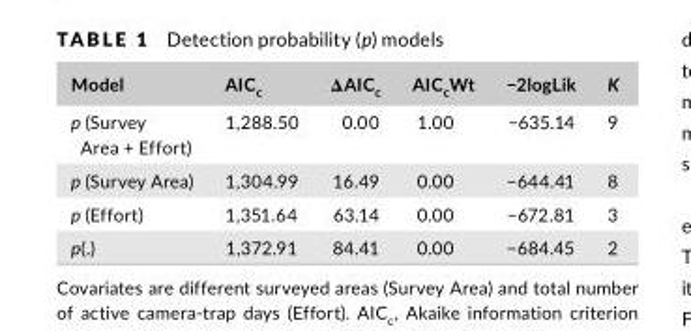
<table><thead><tr><td>Model</td><td>AIC<sub>c</sub></td><td>ΔAIC<sub>c</sub></td><td>AIC<sub>c</sub>Wt</td><td>−2logLik</td><td>K</td></tr></thead><tbody><tr><td>p (Survey Area + Effort)</td><td>1,288.50</td><td>0.00</td><td>1.00</td><td>−635.14</td><td>9</td></tr><tr><td>p (Survey Area)</td><td>1,304.99</td><td>16.49</td><td>0.00</td><td>−644.41</td><td>8</td></tr><tr><td>p (Effort)</td><td>1,351.64</td><td>63.14</td><td>0.00</td><td>−672.81</td><td>3</td></tr><tr><td>p(.)</td><td>1,372.91</td><td>84.41</td><td>0.00</td><td>−684.45</td><td>2</td></tr></tbody></table>